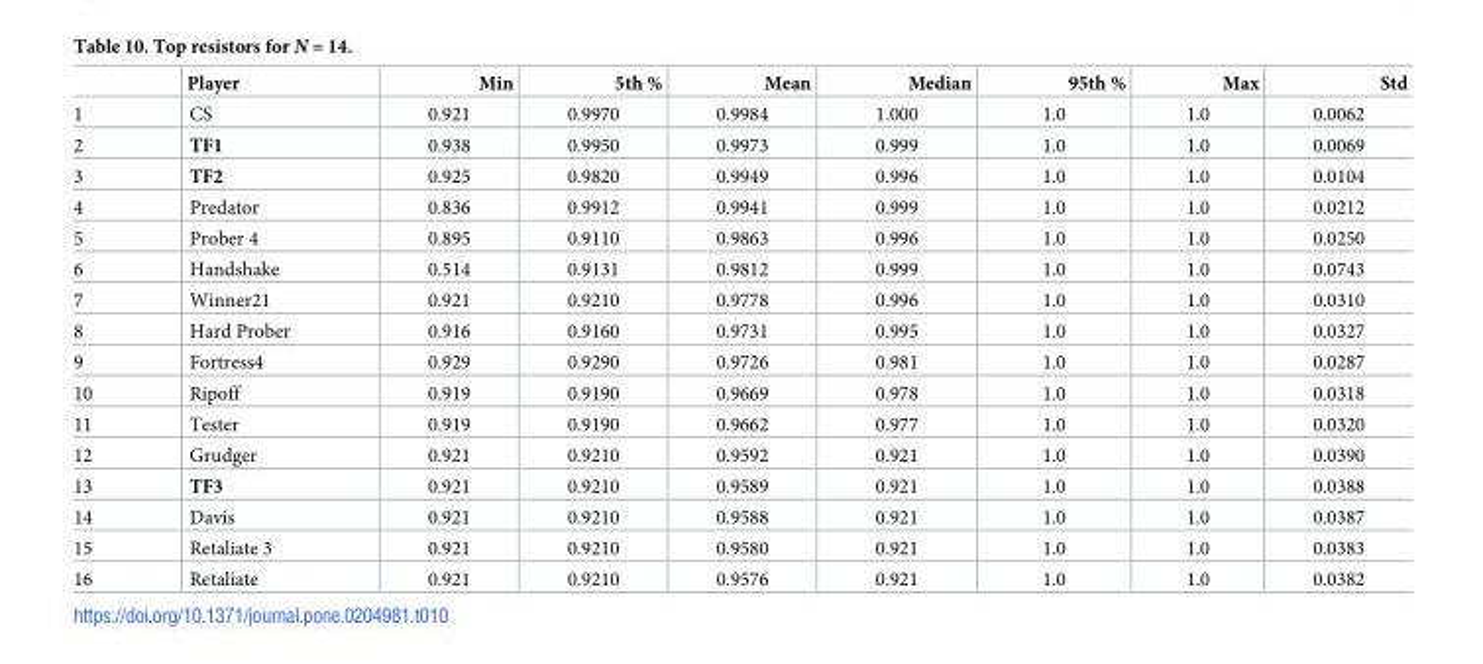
<table><thead><tr><td></td><td>Player</td><td>Min</td><td>5th %</td><td>Mean</td><td>Median</td><td>95th %</td><td>Max</td><td>Std</td></tr></thead><tbody><tr><td>1</td><td>CS</td><td>0.921</td><td>0.9970</td><td>0.9984</td><td>1.000</td><td>1.0</td><td>1.0</td><td>0.0062</td></tr><tr><td>2</td><td>TF1</td><td>0.938</td><td>0.9950</td><td>0.9973</td><td>0.999</td><td>1.0</td><td>1.0</td><td>0.0069</td></tr><tr><td>3</td><td>TF2</td><td>0.925</td><td>0.9820</td><td>0.9949</td><td>0.996</td><td>1.0</td><td>1.0</td><td>0.0104</td></tr><tr><td>4</td><td>Predator</td><td>0.836</td><td>0.9912</td><td>0.9941</td><td>0.999</td><td>1.0</td><td>1.0</td><td>0.0212</td></tr><tr><td>5</td><td>Prober 4</td><td>0.895</td><td>0.9110</td><td>0.9863</td><td>0.996</td><td>1.0</td><td>1.0</td><td>0.0250</td></tr><tr><td>6</td><td>Handshake</td><td>0.514</td><td>0.9131</td><td>0.9812</td><td>0.999</td><td>1.0</td><td>1.0</td><td>0.0743</td></tr><tr><td>7</td><td>Winner21</td><td>0.921</td><td>0.9210</td><td>0.9778</td><td>0.996</td><td>1.0</td><td>1.0</td><td>0.0310</td></tr><tr><td>8</td><td>Hard Prober</td><td>0.916</td><td>0.9160</td><td>0.9731</td><td>0.995</td><td>1.0</td><td>1.0</td><td>0.0327</td></tr><tr><td>9</td><td>Fortress4</td><td>0.929</td><td>0.9290</td><td>0.9726</td><td>0.981</td><td>1.0</td><td>1.0</td><td>0.0287</td></tr><tr><td>10</td><td>Ripoff</td><td>0.919</td><td>0.9190</td><td>0.9669</td><td>0.978</td><td>1.0</td><td>1.0</td><td>0.0318</td></tr><tr><td>11</td><td>Tester</td><td>0.919</td><td>0.9190</td><td>0.9662</td><td>0.977</td><td>1.0</td><td>1.0</td><td>0.0320</td></tr><tr><td>12</td><td>Grudger</td><td>0.921</td><td>0.9210</td><td>0.9592</td><td>0.921</td><td>1.0</td><td>1.0</td><td>0.0390</td></tr><tr><td>13</td><td>TF3</td><td>0.921</td><td>0.9210</td><td>0.9589</td><td>0.921</td><td>1.0</td><td>1.0</td><td>0.0388</td></tr><tr><td>14</td><td>Davis</td><td>0.921</td><td>0.9210</td><td>0.9588</td><td>0.921</td><td>1.0</td><td>1.0</td><td>0.0387</td></tr><tr><td>15</td><td>Retaliate 3</td><td>0.921</td><td>0.9210</td><td>0.9580</td><td>0.921</td><td>1.0</td><td>1.0</td><td>0.0383</td></tr><tr><td>16</td><td>Retaliate</td><td>0.921</td><td>0.9210</td><td>0.9576</td><td>0.921</td><td>1.0</td><td>1.0</td><td>0.0382</td></tr></tbody></table>